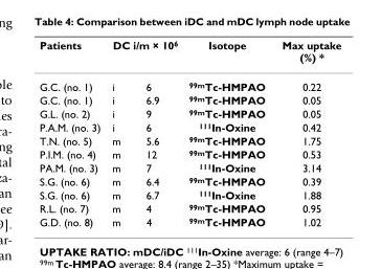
<table><thead><tr><td rowspan="2">Patients G.C. (no. 1)</td><td colspan="2">DC i/m × 10<sup>6</sup></td><td rowspan="2">Isotope <sup>99m</sup>Tc-HMPAO</td><td rowspan="2">Max uptake (%) * 0.22</td></tr><tr><td>i</td><td>6</td></tr></thead><tbody><tr><td>G.C. (no. 1)</td><td>i</td><td>6.9</td><td><sup>99m</sup>Tc-HMPAO</td><td>0.05</td></tr><tr><td>G.L. (no. 2)</td><td>i</td><td>9</td><td><sup>99m</sup>Tc-HMPAO</td><td>0.05</td></tr><tr><td>P.A.M. (no. 3)</td><td>i</td><td>6</td><td><sup>111</sup>In-Oxine</td><td>0.42</td></tr><tr><td>T.N. (no. 5)</td><td>m</td><td>5.6</td><td><sup>99m</sup>Tc-HMPAO</td><td>1.75</td></tr><tr><td>P.I.M. (no. 4)</td><td>m</td><td>12</td><td><sup>99m</sup>Tc-HMPAO</td><td>0.53</td></tr><tr><td>PA.M. (no. 3)</td><td>m</td><td>7</td><td><sup>111</sup>In-Oxine</td><td>3.14</td></tr><tr><td>S.G. (no. 6)</td><td>m</td><td>6.4</td><td><sup>99m</sup>Tc-HMPAO</td><td>0.39</td></tr><tr><td>S.G. (no. 6)</td><td>m</td><td>6.7</td><td><sup>111</sup>In-Oxine</td><td>1.88</td></tr><tr><td>R.L. (no. 7)</td><td>m</td><td>4</td><td><sup>99m</sup>Tc-HMPAO</td><td>0.95</td></tr><tr><td>G.D. (no. 8)</td><td>m</td><td>4</td><td><sup>99m</sup>Tc-HMPAO</td><td>1.02</td></tr></tbody></table>